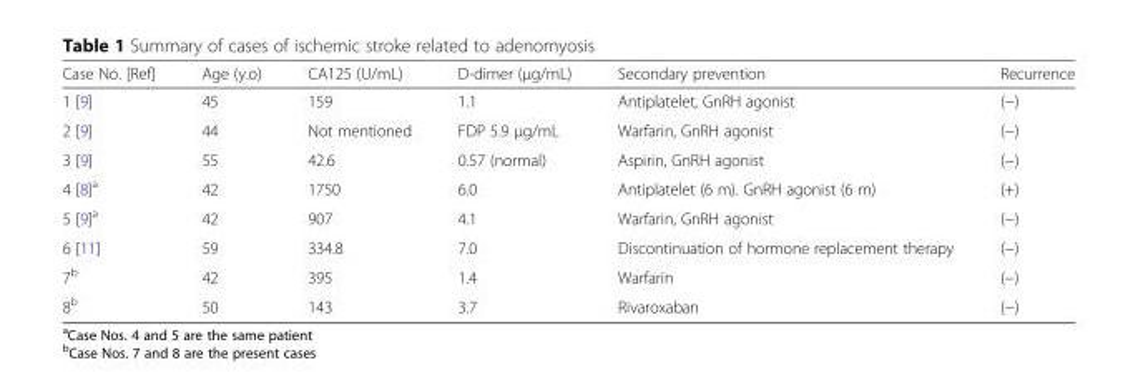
<table><thead><tr><td>Case No. [Ref]</td><td>Age (y.o)</td><td>CA125 (U/mL)</td><td>D-dimer (μg/mL)</td><td>Secondary prevention</td><td>Recurrence</td></tr></thead><tbody><tr><td>1 [9]</td><td>45</td><td>159</td><td>1.1</td><td>Antiplatelet, GnRH agonist</td><td>(−)</td></tr><tr><td>2 [9]</td><td>44</td><td>Not mentioned</td><td>FDP 5.9 μg/mL</td><td>Warfarin, GnRH agonist</td><td>(−)</td></tr><tr><td>3 [9]</td><td>55</td><td>42.6</td><td>0.57 (normal)</td><td>Aspirin, GnRH agonist</td><td>(−)</td></tr><tr><td>4 [8]<sup>a</sup></td><td>42</td><td>1750</td><td>6.0</td><td>Antiplatelet (6 m). GnRH agonist (6 m)</td><td>(+)</td></tr><tr><td>5 [9]<sup>a</sup></td><td>42</td><td>907</td><td>4.1</td><td>Warfarin, GnRH agonist</td><td>(−)</td></tr><tr><td>6 [11]</td><td>59</td><td>334.8</td><td>7.0</td><td>Discontinuation of hormone replacement therapy</td><td>(−)</td></tr><tr><td>7<sup>b</sup></td><td>42</td><td>395</td><td>1.4</td><td>Warfarin</td><td>(−)</td></tr><tr><td>8<sup>b</sup></td><td>50</td><td>143</td><td>3.7</td><td>Rivaroxaban</td><td>(−)</td></tr></tbody></table>